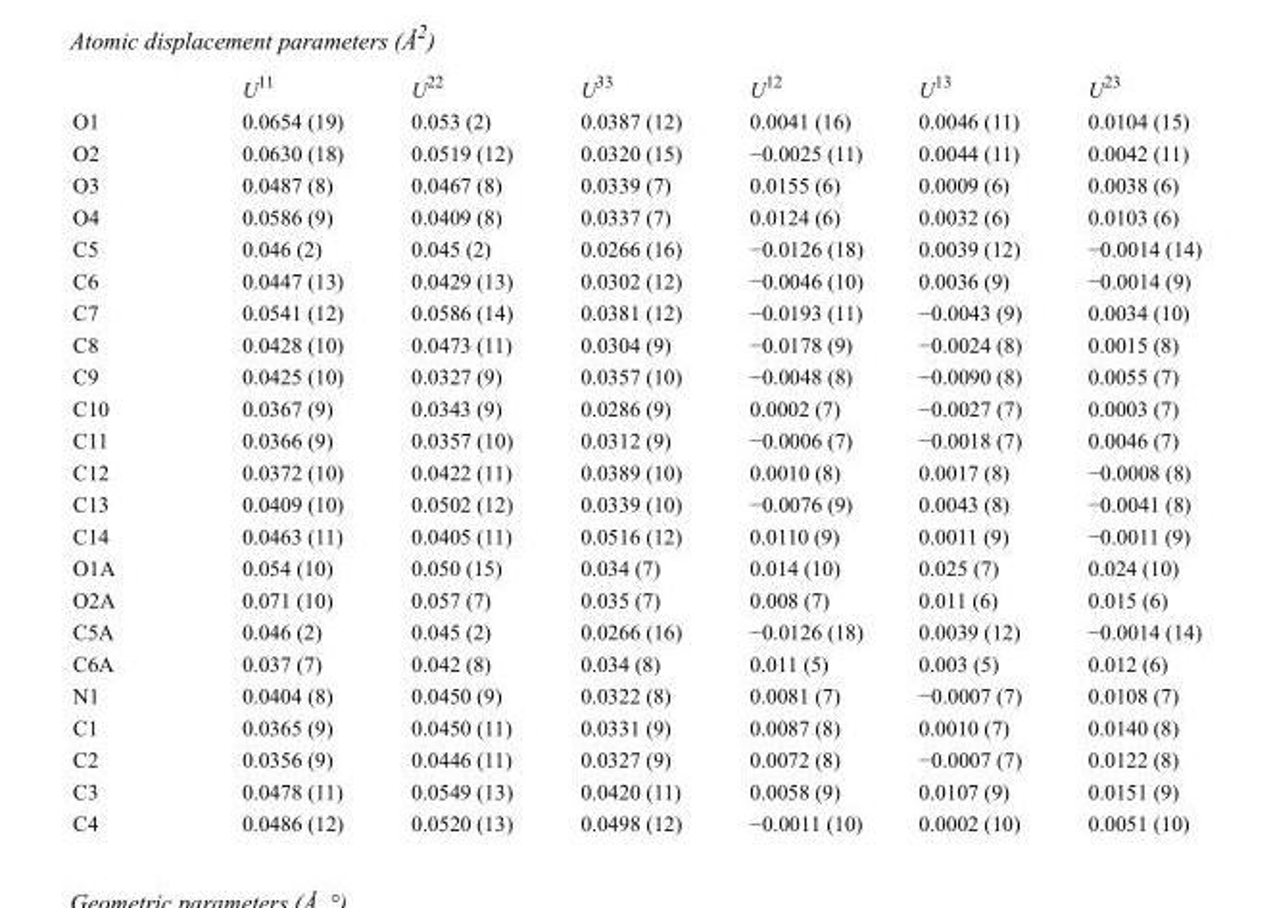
<table><thead><tr><td></td><td>U<sup>11</sup></td><td>U<sup>22</sup></td><td>U<sup>33</sup></td><td>U<sup>12</sup></td><td>U<sup>13</sup></td><td>U<sup>23</sup></td></tr></thead><tbody><tr><td>O1</td><td>0.0654 (19)</td><td>0.053 (2)</td><td>0.0387 (12)</td><td>0.0041 (16)</td><td>0.0046 (11)</td><td>0.0104 (15)</td></tr><tr><td>O2</td><td>0.0630 (18)</td><td>0.0519 (12)</td><td>0.0320 (15)</td><td>−0.0025 (11)</td><td>0.0044 (11)</td><td>0.0042 (11)</td></tr><tr><td>O3</td><td>0.0487 (8)</td><td>0.0467 (8)</td><td>0.0339 (7)</td><td>0.0155 (6)</td><td>0.0009 (6)</td><td>0.0038 (6)</td></tr><tr><td>O4</td><td>0.0586 (9)</td><td>0.0409 (8)</td><td>0.0337 (7)</td><td>0.0124 (6)</td><td>0.0032 (6)</td><td>0.0103 (6)</td></tr><tr><td>C5</td><td>0.046 (2)</td><td>0.045 (2)</td><td>0.0266 (16)</td><td>−0.0126 (18)</td><td>0.0039 (12)</td><td>−0.0014 (14)</td></tr><tr><td>C6</td><td>0.0447 (13)</td><td>0.0429 (13)</td><td>0.0302 (12)</td><td>−0.0046 (10)</td><td>0.0036 (9)</td><td>−0.0014 (9)</td></tr><tr><td>C7</td><td>0.0541 (12)</td><td>0.0586 (14)</td><td>0.0381 (12)</td><td>−0.0193 (11)</td><td>−0.0043 (9)</td><td>0.0034 (10)</td></tr><tr><td>C8</td><td>0.0428 (10)</td><td>0.0473 (11)</td><td>0.0304 (9)</td><td>−0.0178 (9)</td><td>−0.0024 (8)</td><td>0.0015 (8)</td></tr><tr><td>C9</td><td>0.0425 (10)</td><td>0.0327 (9)</td><td>0.0357 (10)</td><td>−0.0048 (8)</td><td>−0.0090 (8)</td><td>0.0055 (7)</td></tr><tr><td>C10</td><td>0.0367 (9)</td><td>0.0343 (9)</td><td>0.0286 (9)</td><td>0.0002 (7)</td><td>−0.0027 (7)</td><td>0.0003 (7)</td></tr><tr><td>C11</td><td>0.0366 (9)</td><td>0.0357 (10)</td><td>0.0312 (9)</td><td>−0.0006 (7)</td><td>−0.0018 (7)</td><td>0.0046 (7)</td></tr><tr><td>C12</td><td>0.0372 (10)</td><td>0.0422 (11)</td><td>0.0389 (10)</td><td>0.0010 (8)</td><td>0.0017 (8)</td><td>−0.0008 (8)</td></tr><tr><td>C13</td><td>0.0409 (10)</td><td>0.0502 (12)</td><td>0.0339 (10)</td><td>−0.0076 (9)</td><td>0.0043 (8)</td><td>−0.0041 (8)</td></tr><tr><td>C14</td><td>0.0463 (11)</td><td>0.0405 (11)</td><td>0.0516 (12)</td><td>0.0110 (9)</td><td>0.0011 (9)</td><td>−0.0011 (9)</td></tr><tr><td>O1A</td><td>0.054 (10)</td><td>0.050 (15)</td><td>0.034 (7)</td><td>0.014 (10)</td><td>0.025 (7)</td><td>0.024 (10)</td></tr><tr><td>O2A</td><td>0.071 (10)</td><td>0.057 (7)</td><td>0.035 (7)</td><td>0.008 (7)</td><td>0.011 (6)</td><td>0.015 (6)</td></tr><tr><td>C5A</td><td>0.046 (2)</td><td>0.045 (2)</td><td>0.0266 (16)</td><td>−0.0126 (18)</td><td>0.0039 (12)</td><td>−0.0014 (14)</td></tr><tr><td>C6A</td><td>0.037 (7)</td><td>0.042 (8)</td><td>0.034 (8)</td><td>0.011 (5)</td><td>0.003 (5)</td><td>0.012 (6)</td></tr><tr><td>N1</td><td>0.0404 (8)</td><td>0.0450 (9)</td><td>0.0322 (8)</td><td>0.0081 (7)</td><td>−0.0007 (7)</td><td>0.0108 (7)</td></tr><tr><td>C1</td><td>0.0365 (9)</td><td>0.0450 (11)</td><td>0.0331 (9)</td><td>0.0087 (8)</td><td>0.0010 (7)</td><td>0.0140 (8)</td></tr><tr><td>C2</td><td>0.0356 (9)</td><td>0.0446 (11)</td><td>0.0327 (9)</td><td>0.0072 (8)</td><td>−0.0007 (7)</td><td>0.0122 (8)</td></tr><tr><td>C3</td><td>0.0478 (11)</td><td>0.0549 (13)</td><td>0.0420 (11)</td><td>0.0058 (9)</td><td>0.0107 (9)</td><td>0.0151 (9)</td></tr><tr><td>C4</td><td>0.0486 (12)</td><td>0.0520 (13)</td><td>0.0498 (12)</td><td>−0.0011 (10)</td><td>0.0002 (10)</td><td>0.0051 (10)</td></tr></tbody></table>